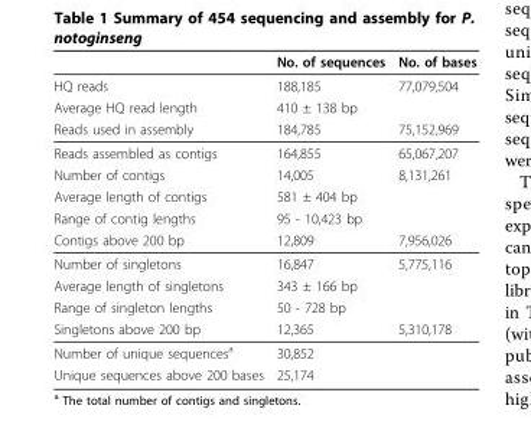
<table><thead><tr><td></td><td>No. of sequences</td><td>No. of bases</td></tr></thead><tbody><tr><td>HQ reads</td><td>188,185</td><td>77,079,504</td></tr><tr><td>Average HQ read length</td><td>410 ± 138 bp</td><td></td></tr><tr><td>Reads used in assembly</td><td>184,785</td><td>75,152,969</td></tr><tr><td>Reads assembled as contigs</td><td>164,855</td><td>65,067,207</td></tr><tr><td>Number of contigs</td><td>14,005</td><td>8,131,261</td></tr><tr><td>Average length of contigs</td><td>581 ± 404 bp</td><td></td></tr><tr><td>Range of contig lengths</td><td>95 - 10,423 bp</td><td></td></tr><tr><td>Contigs above 200 bp</td><td>12,809</td><td>7,956,026</td></tr><tr><td>Number of singletons</td><td>16,847</td><td>5,775,116</td></tr><tr><td>Average length of singletons</td><td>343 ± 166 bp</td><td></td></tr><tr><td>Range of singleton lengths</td><td>50 - 728 bp</td><td></td></tr><tr><td>Singletons above 200 bp</td><td>12,365</td><td>5,310,178</td></tr><tr><td>Number of unique sequences<sup>a</sup></td><td>30,852</td><td></td></tr><tr><td>Unique sequences above 200 bases</td><td>25,174</td><td></td></tr></tbody></table>